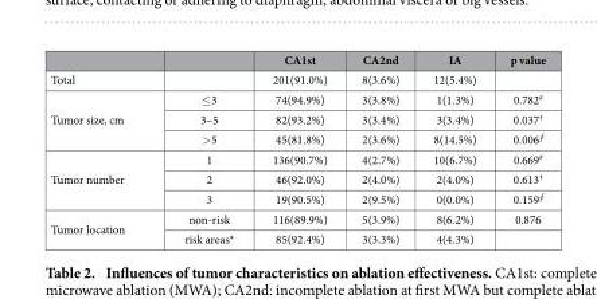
<table><thead><tr><td></td><td></td><td>CA1st</td><td>CA2nd</td><td>IA</td><td>p value</td></tr></thead><tbody><tr><td>Total</td><td></td><td>201(91.0%)</td><td>8(3.6%)</td><td>12(5.4%)</td><td></td></tr><tr><td rowspan="3">Tumor size, cm</td><td>≤ 3</td><td>74(94.9%)</td><td>3(3.8%)</td><td>1(1.3%)</td><td>0.782#</td></tr><tr><td>3–5</td><td>82(93.2%)</td><td>3(3.4%)</td><td>3(3.4%)</td><td>0.037†</td></tr><tr><td>&gt; 5</td><td>45(81.8%)</td><td>2(3.6%)</td><td>8(14.5%)</td><td>0.006∮</td></tr><tr><td rowspan="3">Tumor number</td><td>1</td><td>136(90.7%)</td><td>4(2.7%)</td><td>10(6.7%)</td><td>0.669#</td></tr><tr><td>2</td><td>46(92.0%)</td><td>2(4.0%)</td><td>2(4.0%)</td><td>0.613†</td></tr><tr><td>3</td><td>19(90.5%)</td><td>2(9.5%)</td><td>0(0.0%)</td><td>0.159∮</td></tr><tr><td rowspan="2">Tumor location</td><td>non-risk</td><td>116(89.9%)</td><td>5(3.9%)</td><td>8(6.2%)</td><td>0.876</td></tr><tr><td>risk areas*</td><td>85(92.4%)</td><td>3(3.3%)</td><td>4(4.3%)</td><td></td></tr></tbody></table>